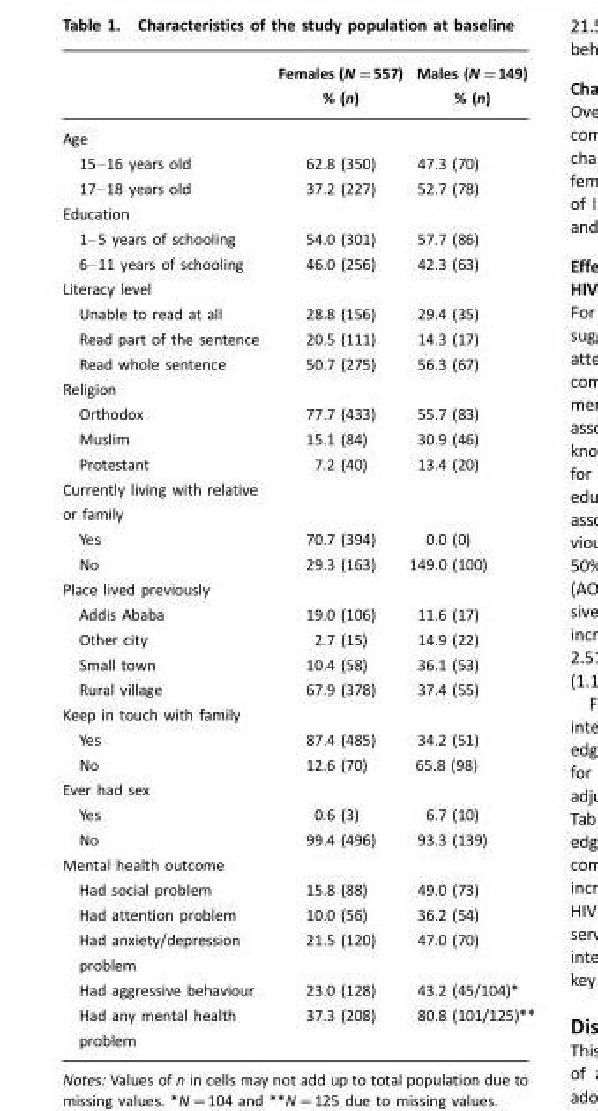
<table><thead><tr><td></td><td>Females (N=557) % (n)</td><td>Males (N=149) % (n)</td></tr></thead><tbody><tr><td colspan="3">Age</td></tr><tr><td>15–16 years old</td><td>62.8 (350)</td><td>47.3 (70)</td></tr><tr><td>17–18 years old</td><td>37.2 (227)</td><td>52.7 (78)</td></tr><tr><td colspan="3">Education</td></tr><tr><td>1–5 years of schooling</td><td>54.0 (301)</td><td>57.7 (86)</td></tr><tr><td>6–11 years of schooling</td><td>46.0 (256)</td><td>42.3 (63)</td></tr><tr><td colspan="3">Literacy level</td></tr><tr><td>Unable to read at all</td><td>28.8 (156)</td><td>29.4 (35)</td></tr><tr><td>Read part of the sentence</td><td>20.5 (111)</td><td>14.3 (17)</td></tr><tr><td>Read whole sentence</td><td>50.7 (275)</td><td>56.3 (67)</td></tr><tr><td colspan="3">Religion</td></tr><tr><td>Orthodox</td><td>77.7 (433)</td><td>55.7 (83)</td></tr><tr><td>Muslim</td><td>15.1 (84)</td><td>30.9 (46)</td></tr><tr><td>Protestant</td><td>7.2 (40)</td><td>13.4 (20)</td></tr><tr><td colspan="3">Currently living with relative or family</td></tr><tr><td>Yes</td><td>70.7 (394)</td><td>0.0 (0)</td></tr><tr><td>No</td><td>29.3 (163)</td><td>149.0 (100)</td></tr><tr><td colspan="3">Place lived previously</td></tr><tr><td>Addis Ababa</td><td>19.0 (106)</td><td>11.6 (17)</td></tr><tr><td>Other city</td><td>2.7 (15)</td><td>14.9 (22)</td></tr><tr><td>Small town</td><td>10.4 (58)</td><td>36.1 (53)</td></tr><tr><td>Rural village</td><td>67.9 (378)</td><td>37.4 (55)</td></tr><tr><td colspan="3">Keep in touch with family</td></tr><tr><td>Yes</td><td>87.4 (485)</td><td>34.2 (51)</td></tr><tr><td>No</td><td>12.6 (70)</td><td>65.8 (98)</td></tr><tr><td colspan="3">Ever had sex</td></tr><tr><td>Yes</td><td>0.6 (3)</td><td>6.7 (10)</td></tr><tr><td>No</td><td>99.4 (496)</td><td>93.3 (139)</td></tr><tr><td colspan="3">Mental health outcome</td></tr><tr><td>Had social problem</td><td>15.8 (88)</td><td>49.0 (73)</td></tr><tr><td>Had attention problem</td><td>10.0 (56)</td><td>36.2 (54)</td></tr><tr><td>Had anxiety/depression problem</td><td>21.5 (120)</td><td>47.0 (70)</td></tr><tr><td>Had aggressive behaviour</td><td>23.0 (128)</td><td>43.2 (45/104)*</td></tr><tr><td>Had any mental health problem</td><td>37.3 (208)</td><td>80.8 (101/125)**</td></tr></tbody></table>